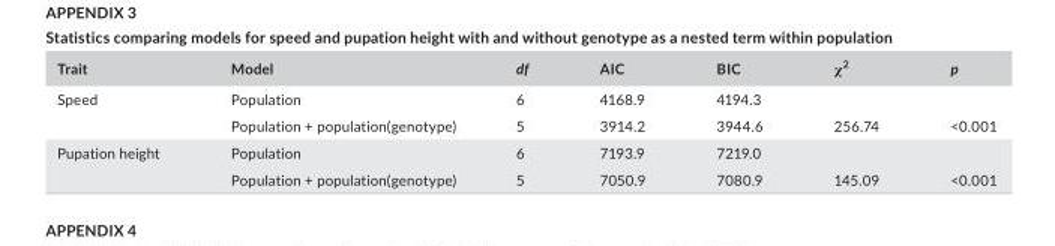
<table><thead><tr><td>Trait</td><td>Model</td><td>df</td><td>AIC</td><td>BIC</td><td>χ<sup>2</sup></td><td>p</td></tr></thead><tbody><tr><td rowspan="2">Speed</td><td>Population</td><td>6</td><td>4168.9</td><td>4194.3</td><td></td><td></td></tr><tr><td>Population + population(genotype)</td><td>5</td><td>3914.2</td><td>3944.6</td><td>256.74</td><td>&lt;0.001</td></tr><tr><td rowspan="2">Pupation height</td><td>Population</td><td>6</td><td>7193.9</td><td>7219.0</td><td></td><td></td></tr><tr><td>Population + population(genotype)</td><td>5</td><td>7050.9</td><td>7080.9</td><td>145.09</td><td>&lt;0.001</td></tr></tbody></table>